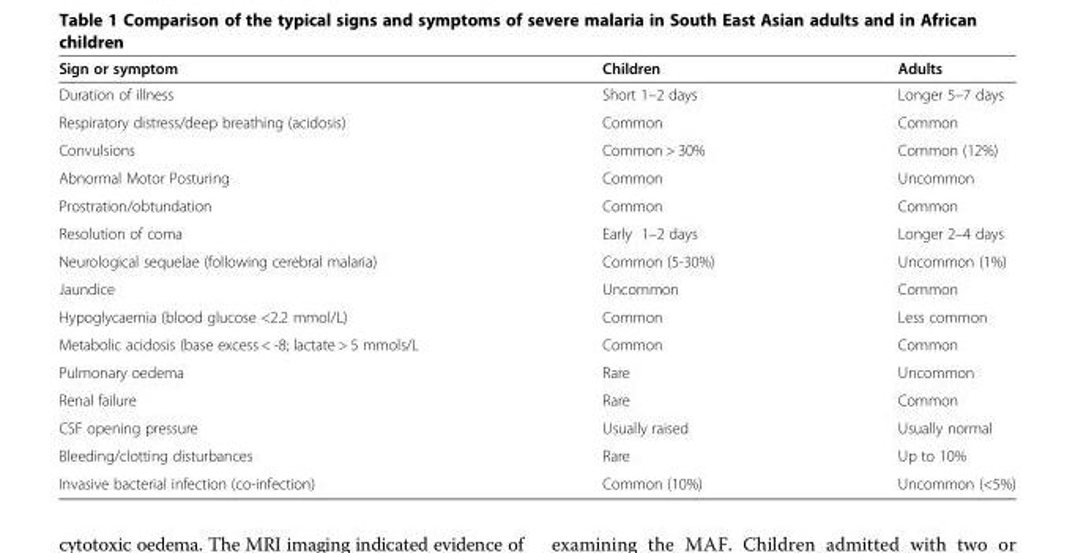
<table><thead><tr><td>Sign or symptom</td><td>Children</td><td>Adults</td></tr></thead><tbody><tr><td>Duration of illness</td><td>Short 1–2 days</td><td>Longer 5–7 days</td></tr><tr><td>Respiratory distress/deep breathing (acidosis)</td><td>Common</td><td>Common</td></tr><tr><td>Convulsions</td><td>Common &gt; 30%</td><td>Common (12%)</td></tr><tr><td>Abnormal Motor Posturing</td><td>Common</td><td>Uncommon</td></tr><tr><td>Prostration/obtundation</td><td>Common</td><td>Common</td></tr><tr><td>Resolution of coma</td><td>Early 1–2 days</td><td>Longer 2–4 days</td></tr><tr><td>Neurological sequelae (following cerebral malaria)</td><td>Common (5-30%)</td><td>Uncommon (1%)</td></tr><tr><td>Jaundice</td><td>Uncommon</td><td>Common</td></tr><tr><td>Hypoglycaemia (blood glucose &lt;2.2 mmol/L)</td><td>Common</td><td>Less common</td></tr><tr><td>Metabolic acidosis (base excess &lt; -8; lactate &gt; 5 mmols/L</td><td>Common</td><td>Common</td></tr><tr><td>Pulmonary oedema</td><td>Rare</td><td>Uncommon</td></tr><tr><td>Renal failure</td><td>Rare</td><td>Common</td></tr><tr><td>CSF opening pressure</td><td>Usually raised</td><td>Usually normal</td></tr><tr><td>Bleeding/clotting disturbances</td><td>Rare</td><td>Up to 10%</td></tr><tr><td>Invasive bacterial infection (co-infection)</td><td>Common (10%)</td><td>Uncommon (&lt;5%)</td></tr></tbody></table>